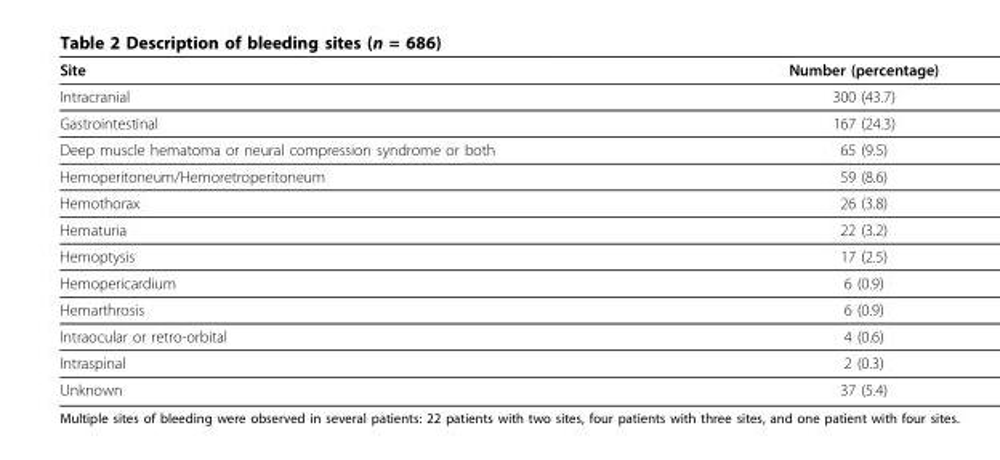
<table><thead><tr><td>Site</td><td>Number (percentage)</td></tr></thead><tbody><tr><td>Intracranial</td><td>300 (43.7)</td></tr><tr><td>Gastrointestinal</td><td>167 (24.3)</td></tr><tr><td>Deep muscle hematoma or neural compression syndrome or both</td><td>65 (9.5)</td></tr><tr><td>Hemoperitoneum/Hemoretroperitoneum</td><td>59 (8.6)</td></tr><tr><td>Hemothorax</td><td>26 (3.8)</td></tr><tr><td>Hematuria</td><td>22 (3.2)</td></tr><tr><td>Hemoptysis</td><td>17 (2.5)</td></tr><tr><td>Hemopericardium</td><td>6 (0.9)</td></tr><tr><td>Hemarthrosis</td><td>6 (0.9)</td></tr><tr><td>Intraocular or retro-orbital</td><td>4 (0.6)</td></tr><tr><td>Intraspinal</td><td>2 (0.3)</td></tr><tr><td>Unknown</td><td>37 (5.4)</td></tr></tbody></table>